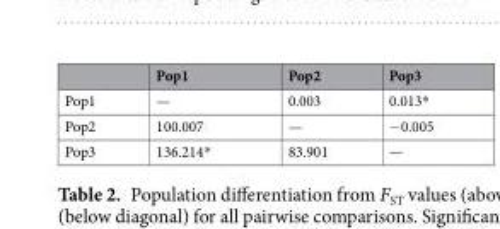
<table><thead><tr><td></td><td>Pop1</td><td>Pop2</td><td>Pop3</td></tr></thead><tbody><tr><td>Pop1</td><td>—</td><td>0.003</td><td>0.013*</td></tr><tr><td>Pop2</td><td>100.007</td><td>—</td><td>−0.005</td></tr><tr><td>Pop3</td><td>136.214*</td><td>83.901</td><td>—</td></tr></tbody></table>